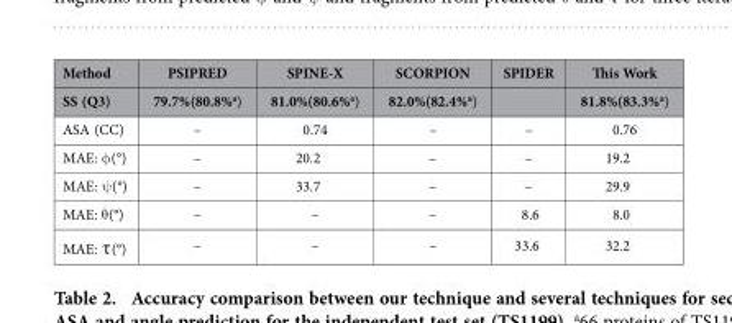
<table><thead><tr><td rowspan="2">Method SS (Q3)</td><td rowspan="2">PSIPRED 79.7%(80.8%<sup>a</sup>)</td><td rowspan="2">SPINE-X 81.0%(80.6%<sup>a</sup>)</td><td rowspan="2">SCORPION 82.0%(82.4%<sup>a</sup>)</td><td rowspan="2">SPIDER</td><td rowspan="2">This Work 81.8%(83.3%<sup>a</sup>)</td></tr><tr></tr></thead><tbody><tr><td>ASA (CC)</td><td>–</td><td>0.74</td><td>–</td><td>–</td><td>0.76</td></tr><tr><td>MAE: φ (°)</td><td>–</td><td>20.2</td><td>–</td><td>–</td><td>19.2</td></tr><tr><td>MAE: ψ (°)</td><td>–</td><td>33.7</td><td>–</td><td>–</td><td>29.9</td></tr><tr><td>MAE: θ (°)</td><td>–</td><td>–</td><td>–</td><td>8.6</td><td>8.0</td></tr><tr><td>MAE: τ (°)</td><td>–</td><td>–</td><td>–</td><td>33.6</td><td>32.2</td></tr></tbody></table>